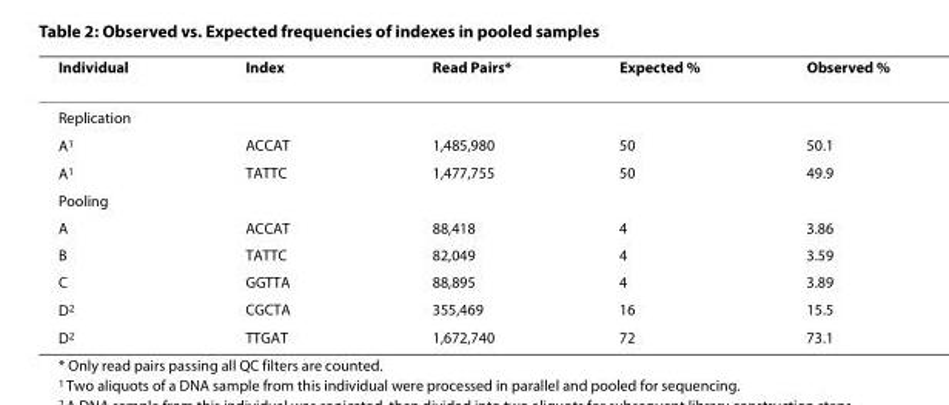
<table><thead><tr><td>Individual</td><td>Index</td><td>Read Pairs*</td><td>Expected %</td><td>Observed %</td></tr></thead><tbody><tr><td colspan="5">Replication</td></tr><tr><td>A<sup>1</sup></td><td>ACCAT</td><td>1,485,980</td><td>50</td><td>50.1</td></tr><tr><td>A<sup>1</sup></td><td>TATTC</td><td>1,477,755</td><td>50</td><td>49.9</td></tr><tr><td colspan="5">Pooling</td></tr><tr><td>A</td><td>ACCAT</td><td>88,418</td><td>4</td><td>3.86</td></tr><tr><td>B</td><td>TATTC</td><td>82,049</td><td>4</td><td>3.59</td></tr><tr><td>C</td><td>GGTTA</td><td>88,895</td><td>4</td><td>3.89</td></tr><tr><td>D<sup>2</sup></td><td>CGCTA</td><td>355,469</td><td>16</td><td>15.5</td></tr><tr><td>D<sup>2</sup></td><td>TTGAT</td><td>1,672,740</td><td>72</td><td>73.1</td></tr></tbody></table>